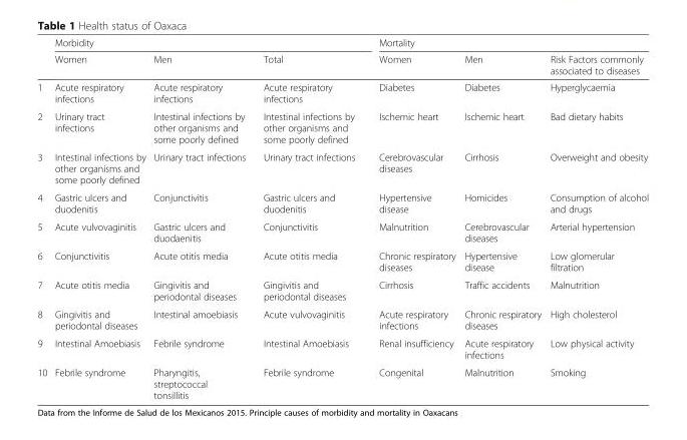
<table><thead><tr><td rowspan="2"></td><td colspan="3">Morbidity</td><td colspan="3">Mortality</td></tr><tr><td>Women</td><td>Men</td><td>Total</td><td>Women</td><td>Men</td><td>Risk Factors commonly associated to diseases</td></tr></thead><tbody><tr><td>1</td><td>Acute respiratory infections</td><td>Acute respiratory infections</td><td>Acute respiratory infections</td><td>Diabetes</td><td>Diabetes</td><td>Hyperglycaemia</td></tr><tr><td>2</td><td>Urinary tract infections</td><td>Intestinal infections by other organisms and some poorly defined</td><td>Intestinal infections by other organisms and some poorly defined</td><td>Ischemic heart</td><td>Ischemic heart</td><td>Bad dietary habits</td></tr><tr><td>3</td><td>Intestinal infections by other organisms and some poorly defined</td><td>Urinary tract infections</td><td>Urinary tract infections</td><td>Cerebrovascular diseases</td><td>Cirrhosis</td><td>Overweight and obesity</td></tr><tr><td>4</td><td>Gastric ulcers and duodenitis</td><td>Conjunctivitis</td><td>Gastric ulcers and duodenitis</td><td>Hypertensive disease</td><td>Homicides</td><td>Consumption of alcohol and drugs</td></tr><tr><td>5</td><td>Acute vulvovaginitis</td><td>Gastric ulcers and duodaenitis</td><td>Conjunctivitis</td><td>Malnutrition</td><td>Cerebrovascular diseases</td><td>Arterial hypertension</td></tr><tr><td>6</td><td>Conjunctivitis</td><td>Acute otitis media</td><td>Acute otitis media</td><td>Chronic respiratory diseases</td><td>Hypertensive disease</td><td>Low glomerular filtration</td></tr><tr><td>7</td><td>Acute otitis media</td><td>Gingivitis and periodontal diseases</td><td>Gingivitis and periodontal diseases</td><td>Cirrhosis</td><td>Traffic accidents</td><td>Malnutrition</td></tr><tr><td>8</td><td>Gingivitis and periodontal diseases</td><td>Intestinal amoebiasis</td><td>Acute vulvovaginitis</td><td>Acute respiratory infections</td><td>Chronic respiratory diseases</td><td>High cholesterol</td></tr><tr><td>9</td><td>Intestinal Amoebiasis</td><td>Febrile syndrome</td><td>Intestinal Amoebiasis</td><td>Renal insufficiency</td><td>Acute respiratory infections</td><td>Low physical activity</td></tr><tr><td>10</td><td>Febrile syndrome</td><td>Pharyngitis, streptococcal tonsillitis</td><td>Febrile syndrome</td><td>Congenital</td><td>Malnutrition</td><td>Smoking</td></tr></tbody></table>